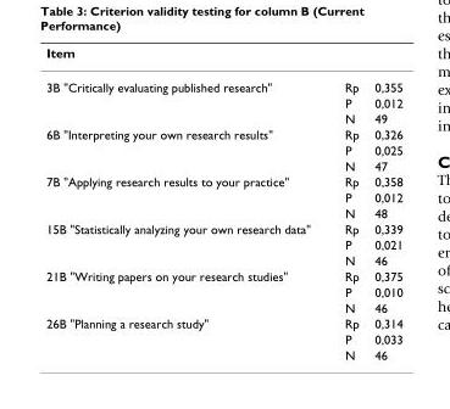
<table><thead><tr><td>Item</td><td></td><td></td></tr></thead><tbody><tr><td rowspan="3">3B &quot;Critically evaluating published research&quot;</td><td>Rp</td><td>0,355</td></tr><tr><td>P</td><td>0,012</td></tr><tr><td>N</td><td>49</td></tr><tr><td rowspan="3">6B &quot;Interpreting your own research results&quot;</td><td>Rp</td><td>0,326</td></tr><tr><td>P</td><td>0,025</td></tr><tr><td>N</td><td>47</td></tr><tr><td rowspan="3">7B &quot;Applying research results to your practice&quot;</td><td>Rp</td><td>0,358</td></tr><tr><td>P</td><td>0,012</td></tr><tr><td>N</td><td>48</td></tr><tr><td rowspan="3">15B &quot;Statistically analyzing your own research data&quot;</td><td>Rp</td><td>0,339</td></tr><tr><td>P</td><td>0,021</td></tr><tr><td>N</td><td>46</td></tr><tr><td rowspan="3">21B &quot;Writing papers on your research studies&quot;</td><td>Rp</td><td>0,375</td></tr><tr><td>P</td><td>0,010</td></tr><tr><td>N</td><td>46</td></tr><tr><td rowspan="3">26B &quot;Planning a research study&quot;</td><td>Rp</td><td>0,314</td></tr><tr><td>P</td><td>0,033</td></tr><tr><td>N</td><td>46</td></tr></tbody></table>